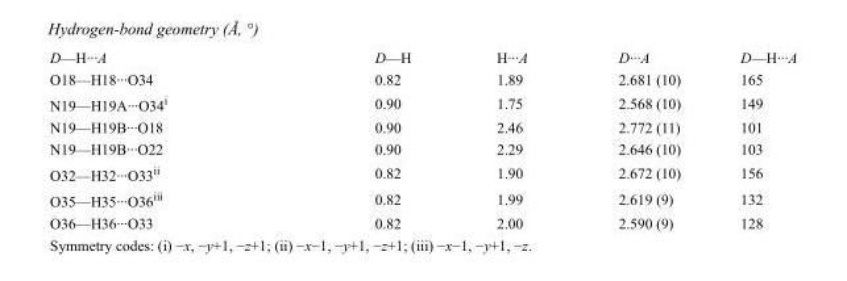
<table><tbody><tr><td>D—H···A</td><td>D—H</td><td>H···A</td><td>D···A</td><td>D—H···A</td></tr><tr><td>O18—H18···O34</td><td>0.82</td><td>1.89</td><td>2.681 (10)</td><td>165</td></tr><tr><td>N19—H19A···O34<sup>i</sup></td><td>0.90</td><td>1.75</td><td>2.568 (10)</td><td>149</td></tr><tr><td>N19—H19B···O18</td><td>0.90</td><td>2.46</td><td>2.772 (11)</td><td>101</td></tr><tr><td>N19—H19B···O22</td><td>0.90</td><td>2.29</td><td>2.646 (10)</td><td>103</td></tr><tr><td>O32—H32···O33<sup>ii</sup></td><td>0.82</td><td>1.90</td><td>2.672 (10)</td><td>156</td></tr><tr><td>O35—H35···O36<sup>iii</sup></td><td>0.82</td><td>1.99</td><td>2.619 (9)</td><td>132</td></tr><tr><td>O36—H36···O33</td><td>0.82</td><td>2.00</td><td>2.590 (9)</td><td>128</td></tr></tbody></table>